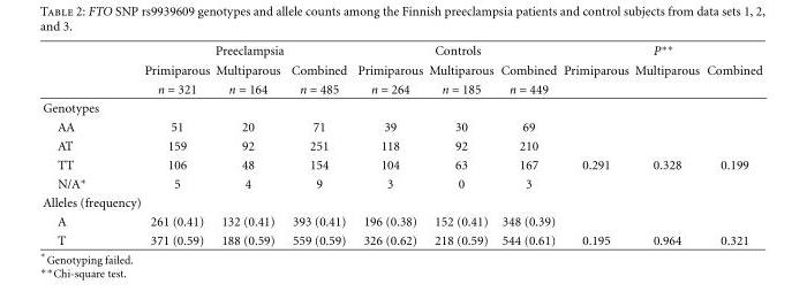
<table><thead><tr><td rowspan="3"></td><td colspan="3">Preeclampsia</td><td colspan="3">Controls</td><td colspan="3">P∗∗</td></tr><tr><td rowspan="2">Primiparous n = 321</td><td rowspan="2">Multiparous n = 164</td><td rowspan="2">Combined n = 485</td><td rowspan="2">Primiparous n = 264</td><td rowspan="2">Multiparous n = 185</td><td rowspan="2">Combined n = 449</td><td rowspan="2">Primiparous</td><td rowspan="2">Multiparous</td><td rowspan="2">Combined</td></tr><tr></tr></thead><tbody><tr><td colspan="10">Genotypes</td></tr><tr><td>AA</td><td>51</td><td>20</td><td>71</td><td>39</td><td>30</td><td>69</td><td></td><td></td><td></td></tr><tr><td>AT</td><td>159</td><td>92</td><td>251</td><td>118</td><td>92</td><td>210</td><td></td><td></td><td></td></tr><tr><td>TT</td><td>106</td><td>48</td><td>154</td><td>104</td><td>63</td><td>167</td><td>0.291</td><td>0.328</td><td>0.199</td></tr><tr><td>N/A∗</td><td>5</td><td>4</td><td>9</td><td>3</td><td>0</td><td>3</td><td></td><td></td><td></td></tr><tr><td colspan="10">Alleles (frequency)</td></tr><tr><td>A</td><td>261 (0.41)</td><td>132 (0.41)</td><td>393 (0.41)</td><td>196 (0.38)</td><td>152 (0.41)</td><td>348 (0.39)</td><td></td><td></td><td></td></tr><tr><td>T</td><td>371 (0.59)</td><td>188 (0.59)</td><td>559 (0.59)</td><td>326 (0.62)</td><td>218 (0.59)</td><td>544 (0.61)</td><td>0.195</td><td>0.964</td><td>0.321</td></tr></tbody></table>